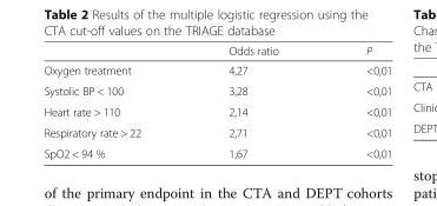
<table><thead><tr><td></td><td>Odds ratio</td><td>P</td></tr></thead><tbody><tr><td>Oxygen treatment</td><td>4,27</td><td>&lt;0,01</td></tr><tr><td>Systolic BP &lt; 100</td><td>3,28</td><td>&lt;0,01</td></tr><tr><td>Heart rate &gt; 110</td><td>2,14</td><td>&lt;0,01</td></tr><tr><td>Respiratory rate &gt; 22</td><td>2,71</td><td>&lt;0,01</td></tr><tr><td>SpO2 &lt; 94 %</td><td>1,67</td><td>&lt;0,01</td></tr></tbody></table>